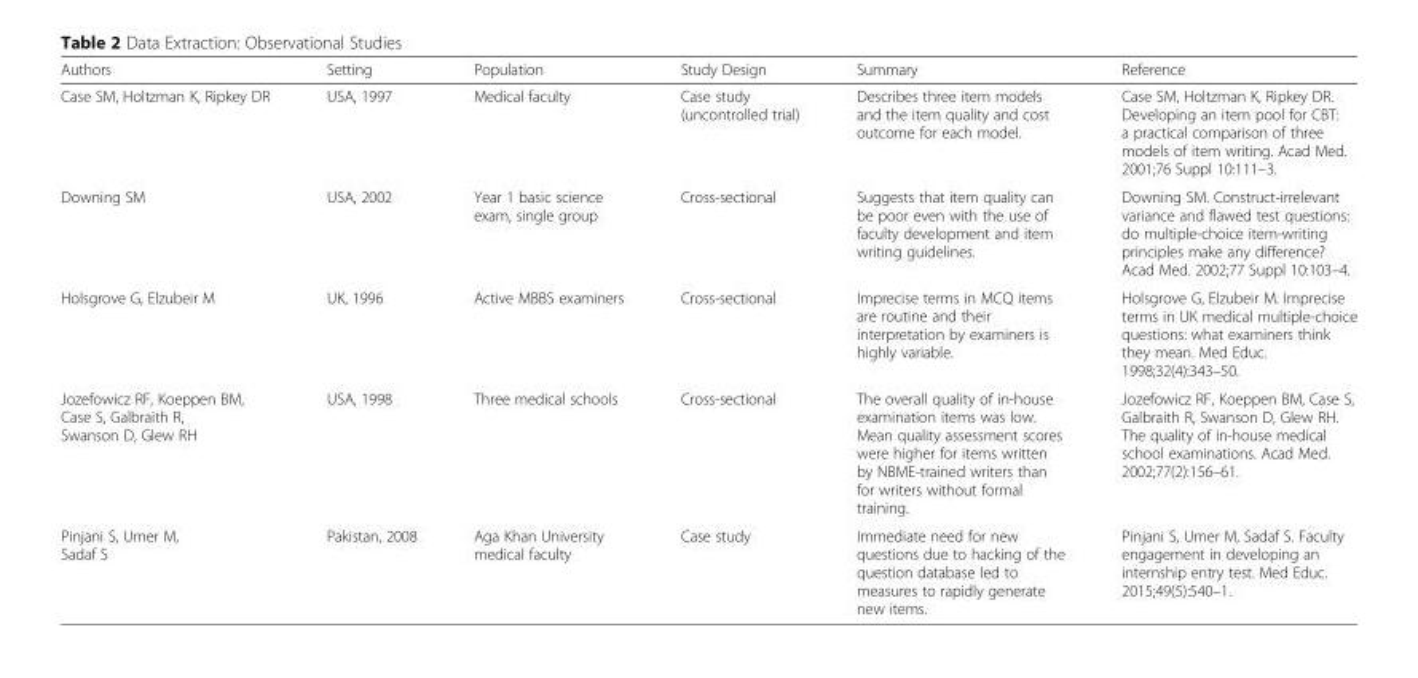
<table><thead><tr><td>Authors</td><td>Setting</td><td>Population</td><td>Study Design</td><td>Summary</td><td>Reference</td></tr></thead><tbody><tr><td>Case SM, Holtzman K, Ripkey DR</td><td>USA, 1997</td><td>Medical faculty</td><td>Case study (uncontrolled trial)</td><td>Describes three item models and the item quality and cost outcome for each model.</td><td>Case SM, Holtzman K, Ripkey DR. Developing an item pool for CBT: a practical comparison of three models of item writing. Acad Med. 2001;76 Suppl 10:111–3.</td></tr><tr><td>Downing SM</td><td>USA, 2002</td><td>Year 1 basic science exam, single group</td><td>Cross-sectional</td><td>Suggests that item quality can be poor even with the use of faculty development and item writing guidelines.</td><td>Downing SM. Construct-irrelevant variance and flawed test questions: do multiple-choice item-writing principles make any difference? Acad Med. 2002;77 Suppl 10:103–4.</td></tr><tr><td>Holsgrove G, Elzubeir M</td><td>UK, 1996</td><td>Active MBBS examiners</td><td>Cross-sectional</td><td>Imprecise terms in MCQ items are routine and their interpretation by examiners is highly variable.</td><td>Holsgrove G, Elzubeir M. Imprecise terms in UK medical multiple-choice questions: what examiners think they mean. Med Educ. 1998;32(4):343–50.</td></tr><tr><td>Jozefowicz RF, Koeppen BM, Case S, Galbraith R, Swanson D, Glew RH</td><td>USA, 1998</td><td>Three medical schools</td><td>Cross-sectional</td><td>The overall quality of in-house examination items was low. Mean quality assessment scores were higher for items written by NBME-trained writers than for writers without formal training.</td><td>Jozefowicz RF, Koeppen BM, Case S, Galbraith R, Swanson D, Glew RH. The quality of in-house medical school examinations. Acad Med. 2002;77(2):156–61.</td></tr><tr><td>Pinjani S, Umer M, Sadaf S</td><td>Pakistan, 2008</td><td>Aga Khan University medical faculty</td><td>Case study</td><td>Immediate need for new questions due to hacking of the question database led to measures to rapidly generate new items.</td><td>Pinjani S, Umer M, Sadaf S. Faculty engagement in developing an internship entry test. Med Educ. 2015;49(5):540–1.</td></tr></tbody></table>